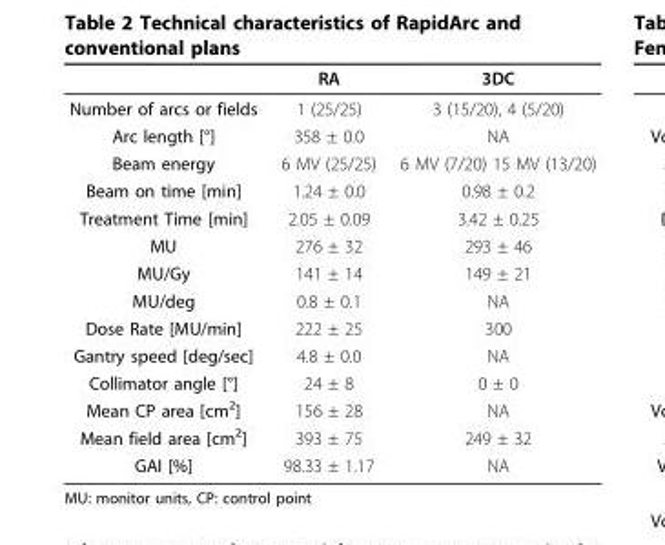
<table><thead><tr><td></td><td>RA</td><td>3DC</td></tr></thead><tbody><tr><td>Number of arcs or fields</td><td>1 (25/25)</td><td>3 (15/20), 4 (5/20)</td></tr><tr><td>Arc length [°]</td><td>358 ± 0.0</td><td>NA</td></tr><tr><td>Beam energy</td><td>6 MV (25/25)</td><td>6 MV (7/20) 15 MV (13/20)</td></tr><tr><td>Beam on time [min]</td><td>1.24 ± 0.0</td><td>0.98 ± 0.2</td></tr><tr><td>Treatment Time [min]</td><td>2.05 ± 0.09</td><td>3.42 ± 0.25</td></tr><tr><td>MU</td><td>276 ± 32</td><td>293 ± 46</td></tr><tr><td>MU/Gy</td><td>141 ± 14</td><td>149 ± 21</td></tr><tr><td>MU/deg</td><td>0.8 ± 0.1</td><td>NA</td></tr><tr><td>Dose Rate [MU/min]</td><td>222 ± 25</td><td>300</td></tr><tr><td>Gantry speed [deg/sec]</td><td>4.8 ± 0.0</td><td>NA</td></tr><tr><td>Collimator angle [°]</td><td>24 ± 8</td><td>0 ± 0</td></tr><tr><td>Mean CP area [cm<sup>2</sup>]</td><td>156 ± 28</td><td>NA</td></tr><tr><td>Mean field area [cm<sup>2</sup>]</td><td>393 ± 75</td><td>249 ± 32</td></tr><tr><td>GAI [%]</td><td>98.33 ± 1.17</td><td>NA</td></tr></tbody></table>